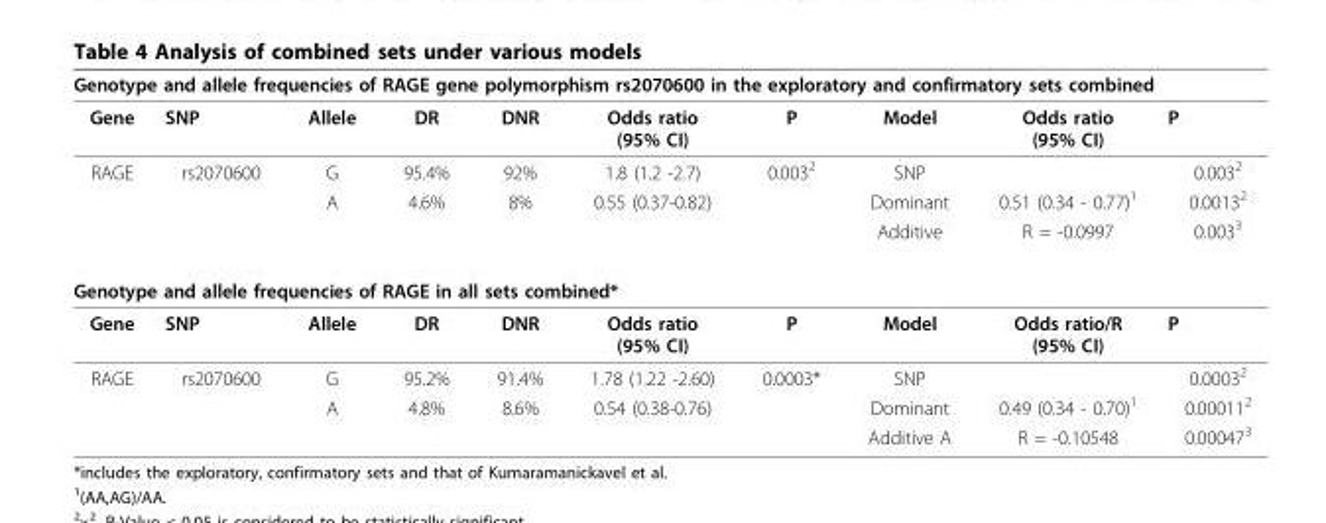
<table><thead><tr><td colspan="10">Genotype and allele frequencies of RAGE gene polymorphism rs2070600 in the exploratory and confirmatory sets combined</td></tr><tr><td>Gene</td><td>SNP</td><td>Allele</td><td>DR</td><td>DNR</td><td>Odds ratio (95% CI)</td><td>P</td><td>Model</td><td>Odds ratio (95% CI)</td><td>P</td></tr></thead><tbody><tr><td rowspan="3">RAGE</td><td>rs2070600</td><td>G</td><td>95.4%</td><td>92%</td><td>1.8 (1.2 -2.7)</td><td>0.003<sup>2</sup></td><td>SNP</td><td></td><td>0.003<sup>2</sup></td></tr><tr><td></td><td>A</td><td>4.6%</td><td>8%</td><td>0.55 (0.37-0.82)</td><td></td><td>Dominant</td><td>0.51 (0.34 - 0.77)<sup>1</sup></td><td>0.0013<sup>2</sup></td></tr><tr><td></td><td></td><td></td><td></td><td></td><td></td><td>Additive</td><td>R = -0.0997</td><td>0.003<sup>3</sup></td></tr><tr><td colspan="10">Genotype and allele frequencies of RAGE in all sets combined*</td></tr><tr><td>Gene</td><td>SNP</td><td>Allele</td><td>DR</td><td>DNR</td><td>Odds ratio (95% CI)</td><td>P</td><td>Model</td><td>Odds ratio/R (95% CI)</td><td>P</td></tr><tr><td rowspan="3">RAGE</td><td>rs2070600</td><td>G</td><td>95.2%</td><td>91.4%</td><td>1.78 (1.22 -2.60)</td><td>0.0003*</td><td>SNP</td><td></td><td>0.0003<sup>2</sup></td></tr><tr><td></td><td>A</td><td>4.8%</td><td>8.6%</td><td>0.54 (0.38-0.76)</td><td></td><td>Dominant</td><td>0.49 (0.34 - 0.70)<sup>1</sup></td><td>0.00011<sup>2</sup></td></tr><tr><td></td><td></td><td></td><td></td><td></td><td></td><td>Additive A</td><td>R = -0.10548</td><td>0.00047<sup>3</sup></td></tr></tbody></table>